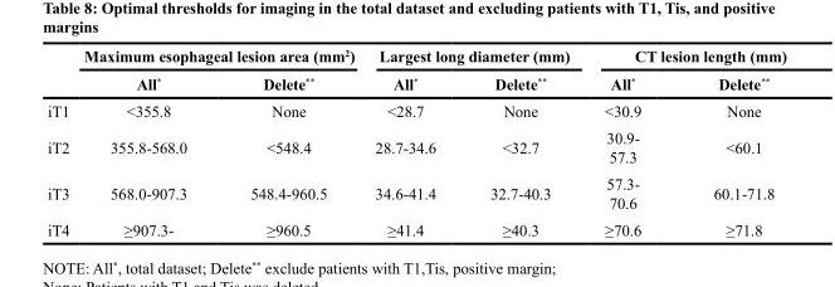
<table><thead><tr><td rowspan="2"></td><td colspan="2">Maximum esophageal lesion area (mm<sup>2</sup>)</td><td colspan="2">Largest long diameter (mm)</td><td colspan="2">CT lesion length (mm)</td></tr><tr><td>All*</td><td>Delete**</td><td>All*</td><td>Delete**</td><td>All*</td><td>Delete**</td></tr></thead><tbody><tr><td>iT1</td><td>&lt;355.8</td><td>None</td><td>&lt;28.7</td><td>None</td><td>&lt;30.9</td><td>None</td></tr><tr><td>iT2</td><td>355.8-568.0</td><td>&lt;548.4</td><td>28.7-34.6</td><td>&lt;32.7</td><td>30.9- 57.3</td><td>&lt;60.1</td></tr><tr><td>iT3</td><td>568.0-907.3</td><td>548.4-960.5</td><td>34.6-41.4</td><td>32.7-40.3</td><td>57.3- 70.6</td><td>60.1-71.8</td></tr><tr><td>iT4</td><td>≥907.3-</td><td>≥960.5</td><td>≥41.4</td><td>≥40.3</td><td>≥70.6</td><td>≥71.8</td></tr></tbody></table>